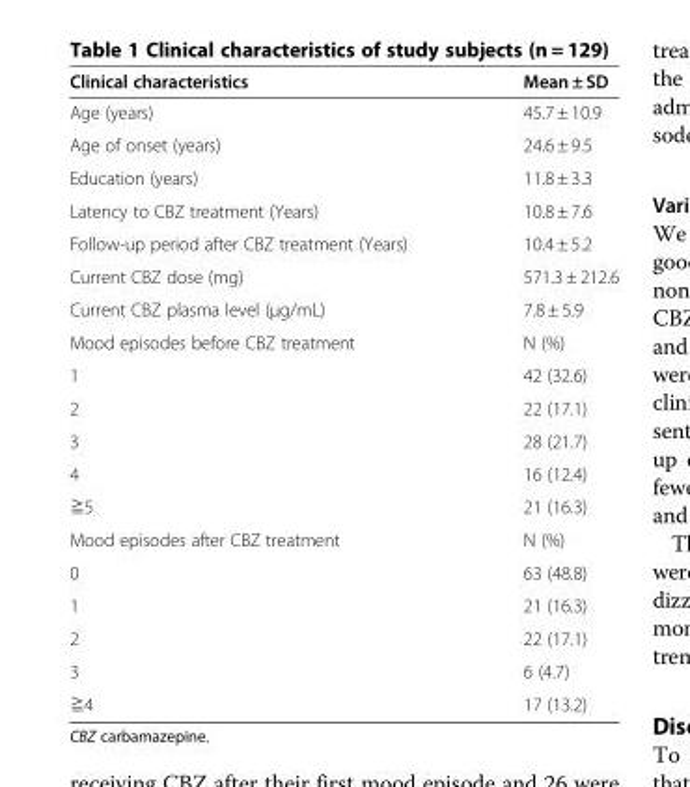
<table><thead><tr><td>Clinical characteristics</td><td>Mean ± SD</td></tr></thead><tbody><tr><td>Age (years)</td><td>45.7 ± 10.9</td></tr><tr><td>Age of onset (years)</td><td>24.6 ± 9.5</td></tr><tr><td>Education (years)</td><td>11.8 ± 3.3</td></tr><tr><td>Latency to CBZ treatment (Years)</td><td>10.8 ± 7.6</td></tr><tr><td>Follow-up period after CBZ treatment (Years)</td><td>10.4 ± 5.2</td></tr><tr><td>Current CBZ dose (mg)</td><td>571.3 ± 212.6</td></tr><tr><td>Current CBZ plasma level (μg/mL)</td><td>7.8 ± 5.9</td></tr><tr><td>Mood episodes before CBZ treatment</td><td>N (%)</td></tr><tr><td>1</td><td>42 (32.6)</td></tr><tr><td>2</td><td>22 (17.1)</td></tr><tr><td>3</td><td>28 (21.7)</td></tr><tr><td>4</td><td>16 (12.4)</td></tr><tr><td>≧5</td><td>21 (16.3)</td></tr><tr><td>Mood episodes after CBZ treatment</td><td>N (%)</td></tr><tr><td>0</td><td>63 (48.8)</td></tr><tr><td>1</td><td>21 (16.3)</td></tr><tr><td>2</td><td>22 (17.1)</td></tr><tr><td>3</td><td>6 (4.7)</td></tr><tr><td>≧4</td><td>17 (13.2)</td></tr></tbody></table>